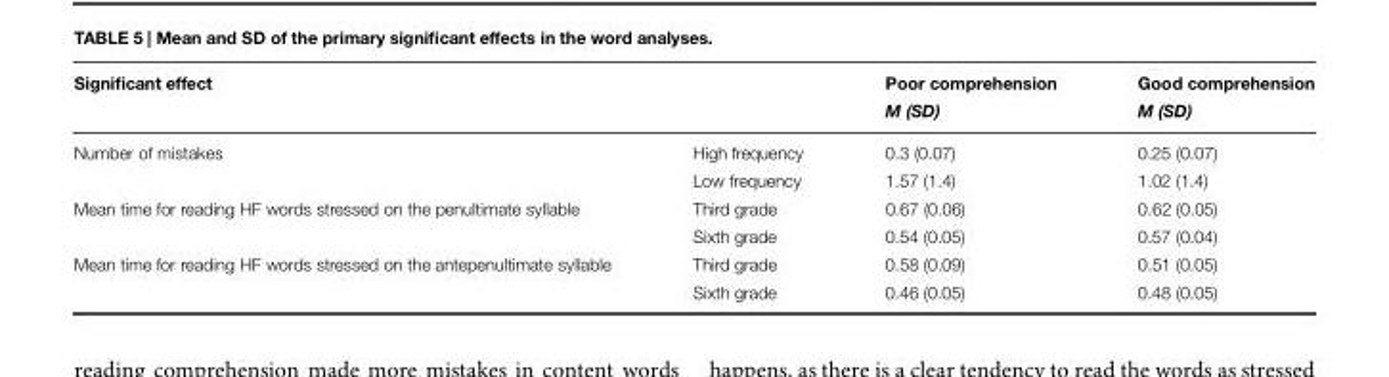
<table><thead><tr><td rowspan="2">Significant effect</td><td rowspan="2"></td><td rowspan="2">Poor comprehension M (SD)</td><td rowspan="2">Good comprehension M (SD)</td></tr><tr></tr></thead><tbody><tr><td rowspan="2">Number of mistakes</td><td>High frequency</td><td>0.3 (0.07)</td><td>0.25 (0.07)</td></tr><tr><td>Low frequency</td><td>1.57 (1.4)</td><td>1.02 (1.4)</td></tr><tr><td rowspan="2">Mean time for reading HF words stressed on the penultimate syllable</td><td>Third grade</td><td>0.67 (0.06)</td><td>0.62 (0.05)</td></tr><tr><td>Sixth grade</td><td>0.54 (0.05)</td><td>0.57 (0.04)</td></tr><tr><td rowspan="2">Mean time for reading HF words stressed on the antepenultimate syllable</td><td>Third grade</td><td>0.58 (0.09)</td><td>0.51 (0.05)</td></tr><tr><td>Sixth grade</td><td>0.46 (0.05)</td><td>0.48 (0.05)</td></tr></tbody></table>